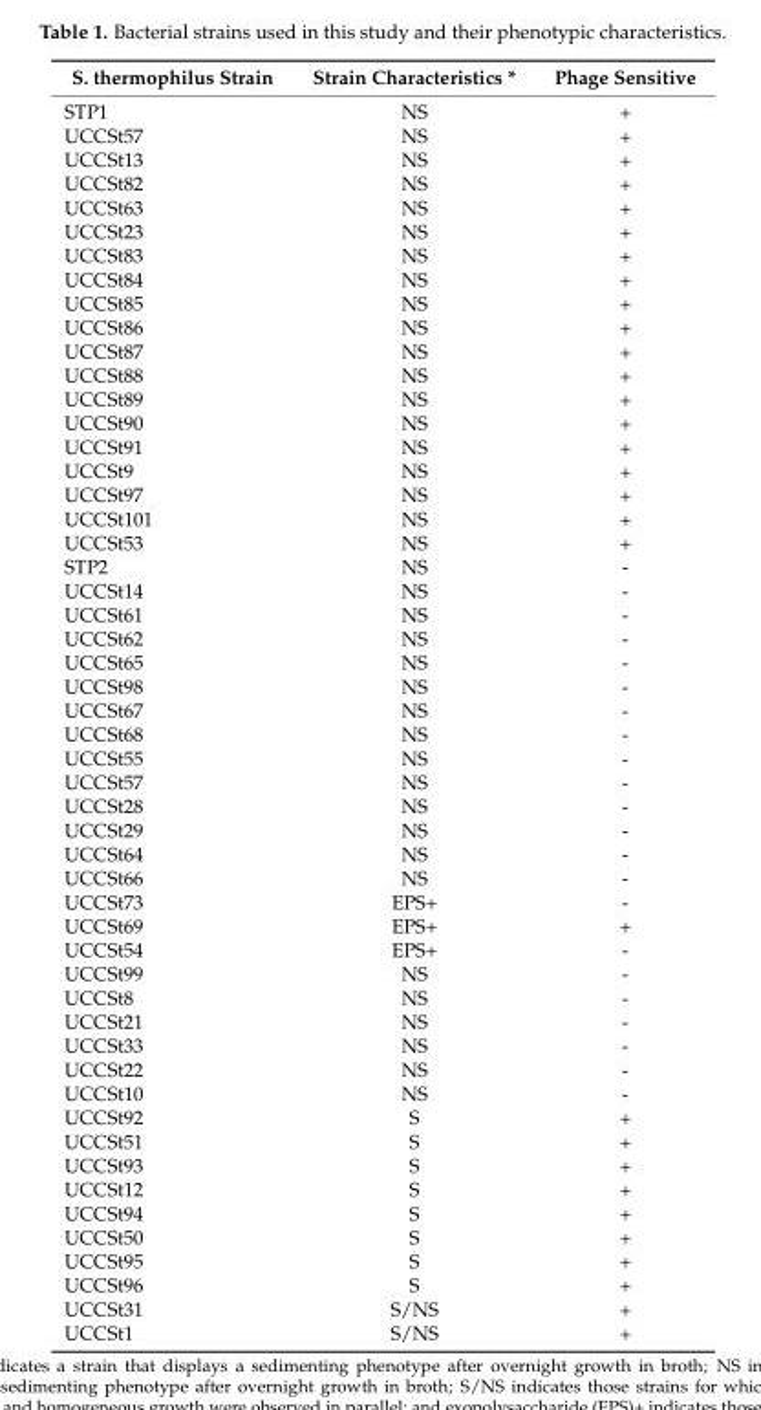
<table><thead><tr><td>S. thermophilus Strain</td><td>Strain Characteristics *</td><td>Phage Sensitive</td></tr></thead><tbody><tr><td>STP1</td><td>NS</td><td>+</td></tr><tr><td>UCCSt57</td><td>NS</td><td>+</td></tr><tr><td>UCCSt13</td><td>NS</td><td>+</td></tr><tr><td>UCCSt82</td><td>NS</td><td>+</td></tr><tr><td>UCCSt63</td><td>NS</td><td>+</td></tr><tr><td>UCCSt23</td><td>NS</td><td>+</td></tr><tr><td>UCCSt83</td><td>NS</td><td>+</td></tr><tr><td>UCCSt84</td><td>NS</td><td>+</td></tr><tr><td>UCCSt85</td><td>NS</td><td>+</td></tr><tr><td>UCCSt86</td><td>NS</td><td>+</td></tr><tr><td>UCCSt87</td><td>NS</td><td>+</td></tr><tr><td>UCCSt88</td><td>NS</td><td>+</td></tr><tr><td>UCCSt89</td><td>NS</td><td>+</td></tr><tr><td>UCCSt90</td><td>NS</td><td>+</td></tr><tr><td>UCCSt91</td><td>NS</td><td>+</td></tr><tr><td>UCCSt9</td><td>NS</td><td>+</td></tr><tr><td>UCCSt97</td><td>NS</td><td>+</td></tr><tr><td>UCCSt101</td><td>NS</td><td>+</td></tr><tr><td>UCCSt53</td><td>NS</td><td>+</td></tr><tr><td>STP2</td><td>NS</td><td>-</td></tr><tr><td>UCCSt14</td><td>NS</td><td>-</td></tr><tr><td>UCCSt61</td><td>NS</td><td>-</td></tr><tr><td>UCCSt62</td><td>NS</td><td>-</td></tr><tr><td>UCCSt65</td><td>NS</td><td>-</td></tr><tr><td>UCCSt98</td><td>NS</td><td>-</td></tr><tr><td>UCCSt67</td><td>NS</td><td>-</td></tr><tr><td>UCCSt68</td><td>NS</td><td>-</td></tr><tr><td>UCCSt55</td><td>NS</td><td>-</td></tr><tr><td>UCCSt57</td><td>NS</td><td>-</td></tr><tr><td>UCCSt28</td><td>NS</td><td>-</td></tr><tr><td>UCCSt29</td><td>NS</td><td>-</td></tr><tr><td>UCCSt64</td><td>NS</td><td>-</td></tr><tr><td>UCCSt66</td><td>NS</td><td>-</td></tr><tr><td>UCCSt73</td><td>EPS+</td><td>-</td></tr><tr><td>UCCSt69</td><td>EPS+</td><td>+</td></tr><tr><td>UCCSt54</td><td>EPS+</td><td>-</td></tr><tr><td>UCCSt99</td><td>NS</td><td>-</td></tr><tr><td>UCCSt8</td><td>NS</td><td>-</td></tr><tr><td>UCCSt21</td><td>NS</td><td>-</td></tr><tr><td>UCCSt33</td><td>NS</td><td>-</td></tr><tr><td>UCCSt22</td><td>NS</td><td>-</td></tr><tr><td>UCCSt10</td><td>NS</td><td>-</td></tr><tr><td>UCCSt92</td><td>S</td><td>+</td></tr><tr><td>UCCSt51</td><td>S</td><td>+</td></tr><tr><td>UCCSt93</td><td>S</td><td>+</td></tr><tr><td>UCCSt12</td><td>S</td><td>+</td></tr><tr><td>UCCSt94</td><td>S</td><td>+</td></tr><tr><td>UCCSt50</td><td>S</td><td>+</td></tr><tr><td>UCCSt95</td><td>S</td><td>+</td></tr><tr><td>UCCSt96</td><td>S</td><td>+</td></tr><tr><td>UCCSt31</td><td>S/NS</td><td>+</td></tr><tr><td>UCCSt1</td><td>S/NS</td><td>+</td></tr></tbody></table>